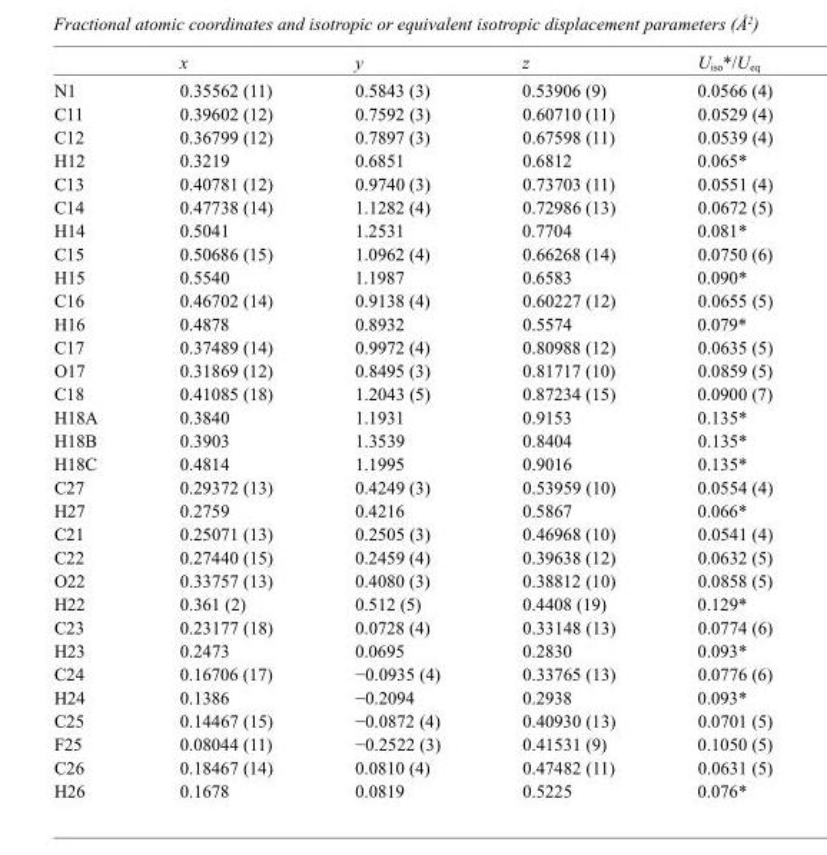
<table><thead><tr><td></td><td>x</td><td>y</td><td>z</td><td>U<sub>iso</sub>*/U<sub>eq</sub></td></tr></thead><tbody><tr><td>N1</td><td>0.35562 (11)</td><td>0.5843 (3)</td><td>0.53906 (9)</td><td>0.0566 (4)</td></tr><tr><td>C11</td><td>0.39602 (12)</td><td>0.7592 (3)</td><td>0.60710 (11)</td><td>0.0529 (4)</td></tr><tr><td>C12</td><td>0.36799 (12)</td><td>0.7897 (3)</td><td>0.67598 (11)</td><td>0.0539 (4)</td></tr><tr><td>H12</td><td>0.3219</td><td>0.6851</td><td>0.6812</td><td>0.065*</td></tr><tr><td>C13</td><td>0.40781 (12)</td><td>0.9740 (3)</td><td>0.73703 (11)</td><td>0.0551 (4)</td></tr><tr><td>C14</td><td>0.47738 (14)</td><td>1.1282 (4)</td><td>0.72986 (13)</td><td>0.0672 (5)</td></tr><tr><td>H14</td><td>0.5041</td><td>1.2531</td><td>0.7704</td><td>0.081*</td></tr><tr><td>C15</td><td>0.50686 (15)</td><td>1.0962 (4)</td><td>0.66268 (14)</td><td>0.0750 (6)</td></tr><tr><td>H15</td><td>0.5540</td><td>1.1987</td><td>0.6583</td><td>0.090*</td></tr><tr><td>C16</td><td>0.46702 (14)</td><td>0.9138 (4)</td><td>0.60227 (12)</td><td>0.0655 (5)</td></tr><tr><td>H16</td><td>0.4878</td><td>0.8932</td><td>0.5574</td><td>0.079*</td></tr><tr><td>C17</td><td>0.37489 (14)</td><td>0.9972 (4)</td><td>0.80988 (12)</td><td>0.0635 (5)</td></tr><tr><td>O17</td><td>0.31869 (12)</td><td>0.8495 (3)</td><td>0.81717 (10)</td><td>0.0859 (5)</td></tr><tr><td>C18</td><td>0.41085 (18)</td><td>1.2043 (5)</td><td>0.87234 (15)</td><td>0.0900 (7)</td></tr><tr><td>H18A</td><td>0.3840</td><td>1.1931</td><td>0.9153</td><td>0.135*</td></tr><tr><td>H18B</td><td>0.3903</td><td>1.3539</td><td>0.8404</td><td>0.135*</td></tr><tr><td>H18C</td><td>0.4814</td><td>1.1995</td><td>0.9016</td><td>0.135*</td></tr><tr><td>C27</td><td>0.29372 (13)</td><td>0.4249 (3)</td><td>0.53959 (10)</td><td>0.0554 (4)</td></tr><tr><td>H27</td><td>0.2759</td><td>0.4216</td><td>0.5867</td><td>0.066*</td></tr><tr><td>C21</td><td>0.25071 (13)</td><td>0.2505 (3)</td><td>0.46968 (10)</td><td>0.0541 (4)</td></tr><tr><td>C22</td><td>0.27440 (15)</td><td>0.2459 (4)</td><td>0.39638 (12)</td><td>0.0632 (5)</td></tr><tr><td>O22</td><td>0.33757 (13)</td><td>0.4080 (3)</td><td>0.38812 (10)</td><td>0.0858 (5)</td></tr><tr><td>H22</td><td>0.361 (2)</td><td>0.512 (5)</td><td>0.4408 (19)</td><td>0.129*</td></tr><tr><td>C23</td><td>0.23177 (18)</td><td>0.0728 (4)</td><td>0.33148 (13)</td><td>0.0774 (6)</td></tr><tr><td>H23</td><td>0.2473</td><td>0.0695</td><td>0.2830</td><td>0.093*</td></tr><tr><td>C24</td><td>0.16706 (17)</td><td>−0.0935 (4)</td><td>0.33765 (13)</td><td>0.0776 (6)</td></tr><tr><td>H24</td><td>0.1386</td><td>−0.2094</td><td>0.2938</td><td>0.093*</td></tr><tr><td>C25</td><td>0.14467 (15)</td><td>−0.0872 (4)</td><td>0.40930 (13)</td><td>0.0701 (5)</td></tr><tr><td>F25</td><td>0.08044 (11)</td><td>−0.2522 (3)</td><td>0.41531 (9)</td><td>0.1050 (5)</td></tr><tr><td>C26</td><td>0.18467 (14)</td><td>0.0810 (4)</td><td>0.47482 (11)</td><td>0.0631 (5)</td></tr><tr><td>H26</td><td>0.1678</td><td>0.0819</td><td>0.5225</td><td>0.076*</td></tr></tbody></table>